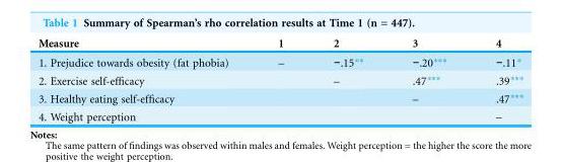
<table><thead><tr><td>Measure</td><td>1</td><td>2</td><td>3</td><td>4</td></tr></thead><tbody><tr><td>1. Prejudice towards obesity (fat phobia)</td><td>–</td><td>−.15**</td><td>−.20***</td><td>−.11*</td></tr><tr><td>2. Exercise self-efficacy</td><td></td><td>–</td><td>.47***</td><td>.39***</td></tr><tr><td>3. Healthy eating self-efficacy</td><td></td><td></td><td>–</td><td>.47***</td></tr><tr><td>4. Weight perception</td><td></td><td></td><td></td><td>–</td></tr></tbody></table>